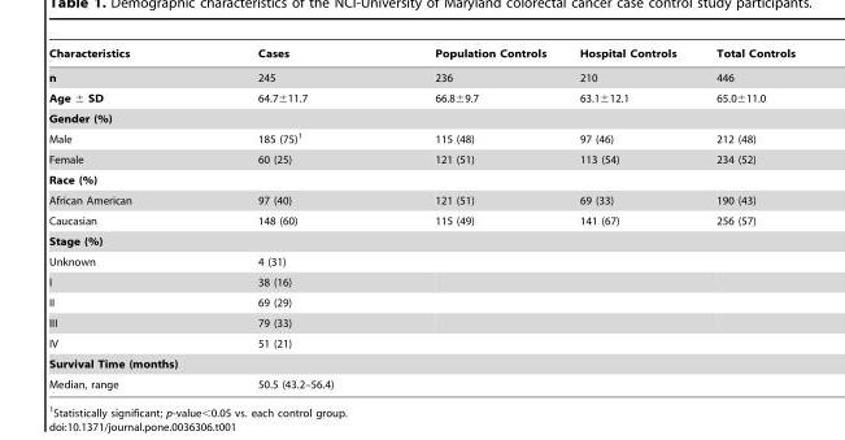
<table><thead><tr><td>Characteristics</td><td>Cases</td><td>Population Controls</td><td>Hospital Controls</td><td>Total Controls</td></tr></thead><tbody><tr><td>n</td><td>245</td><td>236</td><td>210</td><td>446</td></tr><tr><td>Age ± SD</td><td>64.7±11.7</td><td>66.8±9.7</td><td>63.1±12.1</td><td>65.0±11.0</td></tr><tr><td colspan="5">Gender (%)</td></tr><tr><td>Male</td><td>185 (75)<sup>1</sup></td><td>115 (48)</td><td>97 (46)</td><td>212 (48)</td></tr><tr><td>Female</td><td>60 (25)</td><td>121 (51)</td><td>113 (54)</td><td>234 (52)</td></tr><tr><td colspan="5">Race (%)</td></tr><tr><td>African American</td><td>97 (40)</td><td>121 (51)</td><td>69 (33)</td><td>190 (43)</td></tr><tr><td>Caucasian</td><td>148 (60)</td><td>115 (49)</td><td>141 (67)</td><td>256 (57)</td></tr><tr><td colspan="5">Stage (%)</td></tr><tr><td>Unknown</td><td>4 (31)</td><td></td><td></td><td></td></tr><tr><td>I</td><td>38 (16)</td><td></td><td></td><td></td></tr><tr><td>II</td><td>69 (29)</td><td></td><td></td><td></td></tr><tr><td>III</td><td>79 (33)</td><td></td><td></td><td></td></tr><tr><td>IV</td><td>51 (21)</td><td></td><td></td><td></td></tr><tr><td colspan="5">Survival Time (months)</td></tr><tr><td>Median, range</td><td>50.5 (43.2–56.4)</td><td></td><td></td><td></td></tr></tbody></table>